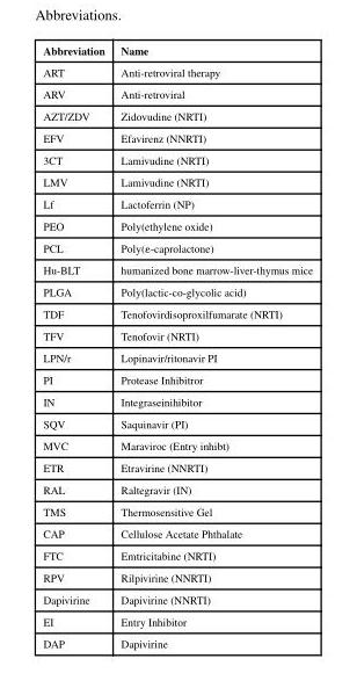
<table><thead><tr><td>Abbreviation</td><td>Name</td></tr></thead><tbody><tr><td>ART</td><td>Anti-retroviral therapy</td></tr><tr><td>ARV</td><td>Anti-retroviral</td></tr><tr><td>AZT/ZDV</td><td>Zidovudine (NRTI)</td></tr><tr><td>EFV</td><td>Efavirenz (NNRTI)</td></tr><tr><td>3CT</td><td>Lamivudine (NRTI)</td></tr><tr><td>LMV</td><td>Lamivudine (NRTI)</td></tr><tr><td>Lf</td><td>Lactoferrin (NP)</td></tr><tr><td>PEO</td><td>Poly(ethylene oxide)</td></tr><tr><td>PCL</td><td>Poly(ε-caprolactone)</td></tr><tr><td>Hu-BLT</td><td>humanized bone marrow-liver-thymus mice</td></tr><tr><td>PLGA</td><td>Poly(lactic-co-glycolic acid)</td></tr><tr><td>TDF</td><td>Tenofovirdisoproxilfumarate (NRTI)</td></tr><tr><td>TFV</td><td>Tenofovir (NRTI)</td></tr><tr><td>LPN/r</td><td>Lopinavir/ritonavir PI</td></tr><tr><td>PI</td><td>Protease Inhibitror</td></tr><tr><td>IN</td><td>Integraseinihibitor</td></tr><tr><td>SQV</td><td>Saquinavir (PI)</td></tr><tr><td>MVC</td><td>Maraviroc (Entry inhibt)</td></tr><tr><td>ETR</td><td>Etravirine (NNRTI)</td></tr><tr><td>RAL</td><td>Raltegravir (IN)</td></tr><tr><td>TMS</td><td>Thermosensitive Gel</td></tr><tr><td>CAP</td><td>Cellulose Acetate Phthalate</td></tr><tr><td>FTC</td><td>Emtricitabine (NRTI)</td></tr><tr><td>RPV</td><td>Rilpivirine (NNRTI)</td></tr><tr><td>Dapivirine</td><td>Dapivirine (NNRTI)</td></tr><tr><td>EI</td><td>Entry Inhibitor</td></tr><tr><td>DAP</td><td>Dapivirine</td></tr></tbody></table>